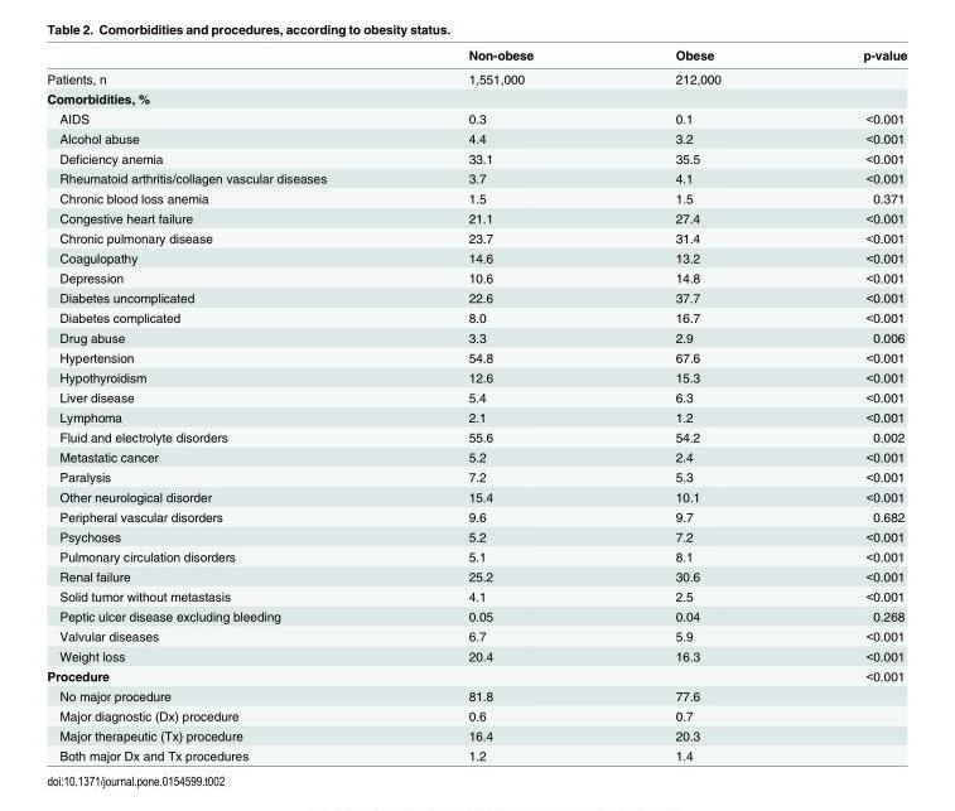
<table><thead><tr><td></td><td>Non-obese</td><td>Obese</td><td>p-value</td></tr></thead><tbody><tr><td>Patients, n</td><td>1,551,000</td><td>212,000</td><td></td></tr><tr><td colspan="4">Comorbidities, %</td></tr><tr><td>AIDS</td><td>0.3</td><td>0.1</td><td>&lt;0.001</td></tr><tr><td>Alcohol abuse</td><td>4.4</td><td>3.2</td><td>&lt;0.001</td></tr><tr><td>Deficiency anemia</td><td>33.1</td><td>35.5</td><td>&lt;0.001</td></tr><tr><td>Rheumatoid arthritis/collagen vascular diseases</td><td>3.7</td><td>4.1</td><td>&lt;0.001</td></tr><tr><td>Chronic blood loss anemia</td><td>1.5</td><td>1.5</td><td>0.371</td></tr><tr><td>Congestive heart failure</td><td>21.1</td><td>27.4</td><td>&lt;0.001</td></tr><tr><td>Chronic pulmonary disease</td><td>23.7</td><td>31.4</td><td>&lt;0.001</td></tr><tr><td>Coagulopathy</td><td>14.6</td><td>13.2</td><td>&lt;0.001</td></tr><tr><td>Depression</td><td>10.6</td><td>14.8</td><td>&lt;0.001</td></tr><tr><td>Diabetes uncomplicated</td><td>22.6</td><td>37.7</td><td>&lt;0.001</td></tr><tr><td>Diabetes complicated</td><td>8.0</td><td>16.7</td><td>&lt;0.001</td></tr><tr><td>Drug abuse</td><td>3.3</td><td>2.9</td><td>0.006</td></tr><tr><td>Hypertension</td><td>54.8</td><td>67.6</td><td>&lt;0.001</td></tr><tr><td>Hypothyroidism</td><td>12.6</td><td>15.3</td><td>&lt;0.001</td></tr><tr><td>Liver disease</td><td>5.4</td><td>6.3</td><td>&lt;0.001</td></tr><tr><td>Lymphoma</td><td>2.1</td><td>1.2</td><td>&lt;0.001</td></tr><tr><td>Fluid and electrolyte disorders</td><td>55.6</td><td>54.2</td><td>0.002</td></tr><tr><td>Metastatic cancer</td><td>5.2</td><td>2.4</td><td>&lt;0.001</td></tr><tr><td>Paralysis</td><td>7.2</td><td>5.3</td><td>&lt;0.001</td></tr><tr><td>Other neurological disorder</td><td>15.4</td><td>10.1</td><td>&lt;0.001</td></tr><tr><td>Peripheral vascular disorders</td><td>9.6</td><td>9.7</td><td>0.682</td></tr><tr><td>Psychoses</td><td>5.2</td><td>7.2</td><td>&lt;0.001</td></tr><tr><td>Pulmonary circulation disorders</td><td>5.1</td><td>8.1</td><td>&lt;0.001</td></tr><tr><td>Renal failure</td><td>25.2</td><td>30.6</td><td>&lt;0.001</td></tr><tr><td>Solid tumor without metastasis</td><td>4.1</td><td>2.5</td><td>&lt;0.001</td></tr><tr><td>Peptic ulcer disease excluding bleeding</td><td>0.05</td><td>0.04</td><td>0.268</td></tr><tr><td>Valvular diseases</td><td>6.7</td><td>5.9</td><td>&lt;0.001</td></tr><tr><td>Weight loss</td><td>20.4</td><td>16.3</td><td>&lt;0.001</td></tr><tr><td>Procedure</td><td></td><td></td><td>&lt;0.001</td></tr><tr><td>No major procedure</td><td>81.8</td><td>77.6</td><td></td></tr><tr><td>Major diagnostic (Dx) procedure</td><td>0.6</td><td>0.7</td><td></td></tr><tr><td>Major therapeutic (Tx) procedure</td><td>16.4</td><td>20.3</td><td></td></tr><tr><td>Both major Dx and Tx procedures</td><td>1.2</td><td>1.4</td><td></td></tr></tbody></table>